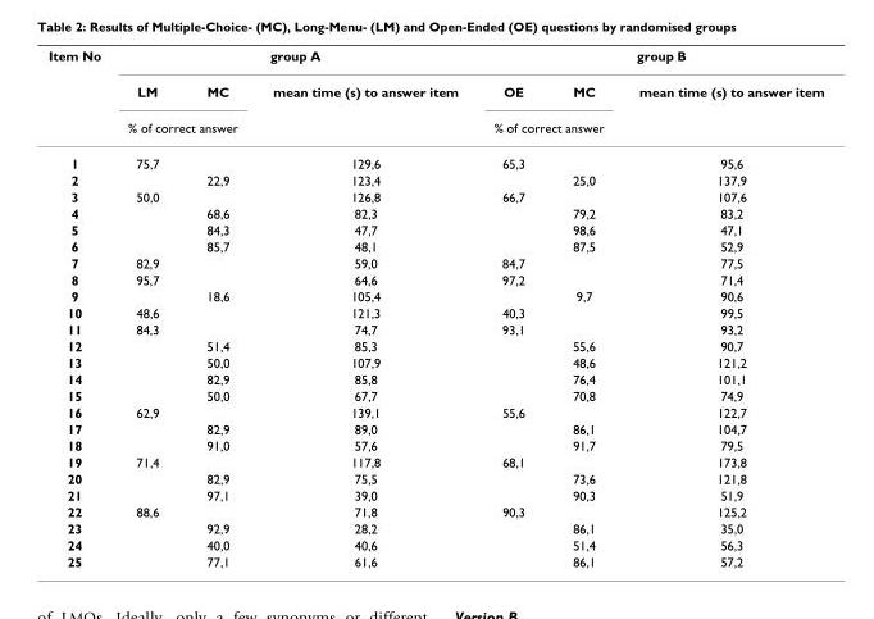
<table><thead><tr><td rowspan="3">Item No</td><td colspan="3">group A</td><td colspan="3">group B</td></tr><tr><td>LM</td><td>MC</td><td rowspan="2">mean time (s) to answer item</td><td>OE</td><td>MC</td><td rowspan="2">mean time (s) to answer item</td></tr><tr><td colspan="2">% of correct answer</td><td colspan="2">% of correct answer</td></tr></thead><tbody><tr><td>1</td><td>75,7</td><td></td><td>129,6</td><td>65,3</td><td></td><td>95,6</td></tr><tr><td>2</td><td></td><td>22,9</td><td>123,4</td><td></td><td>25,0</td><td>137,9</td></tr><tr><td>3</td><td>50,0</td><td></td><td>126,8</td><td>66,7</td><td></td><td>107,6</td></tr><tr><td>4</td><td></td><td>68,6</td><td>82,3</td><td></td><td>79,2</td><td>83,2</td></tr><tr><td>5</td><td></td><td>84,3</td><td>47,7</td><td></td><td>98,6</td><td>47,1</td></tr><tr><td>6</td><td></td><td>85,7</td><td>48,1</td><td></td><td>87,5</td><td>52,9</td></tr><tr><td>7</td><td>82,9</td><td></td><td>59,0</td><td>84,7</td><td></td><td>77,5</td></tr><tr><td>8</td><td>95,7</td><td></td><td>64,6</td><td>97,2</td><td></td><td>71,4</td></tr><tr><td>9</td><td></td><td>18,6</td><td>105,4</td><td></td><td>9,7</td><td>90,6</td></tr><tr><td>10</td><td>48,6</td><td></td><td>121,3</td><td>40,3</td><td></td><td>99,5</td></tr><tr><td>11</td><td>84,3</td><td></td><td>74,7</td><td>93,1</td><td></td><td>93,2</td></tr><tr><td>12</td><td></td><td>51,4</td><td>85,3</td><td></td><td>55,6</td><td>90,7</td></tr><tr><td>13</td><td></td><td>50,0</td><td>107,9</td><td></td><td>48,6</td><td>121,2</td></tr><tr><td>14</td><td></td><td>82,9</td><td>85,8</td><td></td><td>76,4</td><td>101,1</td></tr><tr><td>15</td><td></td><td>50,0</td><td>67,7</td><td></td><td>70,8</td><td>74,9</td></tr><tr><td>16</td><td>62,9</td><td></td><td>139,1</td><td>55,6</td><td></td><td>122,7</td></tr><tr><td>17</td><td></td><td>82,9</td><td>89,0</td><td></td><td>86,1</td><td>104,7</td></tr><tr><td>18</td><td></td><td>91,0</td><td>57,6</td><td></td><td>91,7</td><td>79,5</td></tr><tr><td>19</td><td>71,4</td><td></td><td>117,8</td><td>68,1</td><td></td><td>173,8</td></tr><tr><td>20</td><td></td><td>82,9</td><td>75,5</td><td></td><td>73,6</td><td>121,8</td></tr><tr><td>21</td><td></td><td>97,1</td><td>39,0</td><td></td><td>90,3</td><td>51,9</td></tr><tr><td>22</td><td>88,6</td><td></td><td>71,8</td><td>90,3</td><td></td><td>125,2</td></tr><tr><td>23</td><td></td><td>92,9</td><td>28,2</td><td></td><td>86,1</td><td>35,0</td></tr><tr><td>24</td><td></td><td>40,0</td><td>40,6</td><td></td><td>51,4</td><td>56,3</td></tr><tr><td>25</td><td></td><td>77,1</td><td>61,6</td><td></td><td>86,1</td><td>57,2</td></tr></tbody></table>